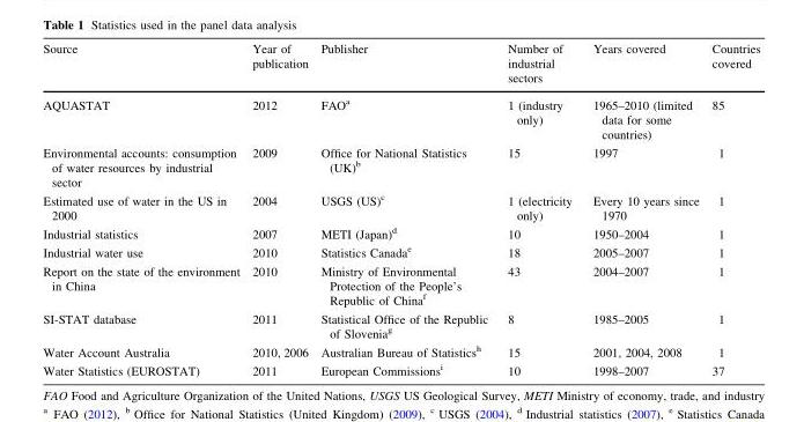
<table><thead><tr><td>Source</td><td>Year of publication</td><td>Publisher</td><td>Number of industrial sectors</td><td>Years covered</td><td>Countries covered</td></tr></thead><tbody><tr><td>AQUASTAT</td><td>2012</td><td>FAO<sup>a</sup></td><td>1 (industry only)</td><td>1965–2010 (limited data for some countries)</td><td>85</td></tr><tr><td>Environmental accounts: consumption of water resources by industrial sector</td><td>2009</td><td>Office for National Statistics (UK)<sup>b</sup></td><td>15</td><td>1997</td><td>1</td></tr><tr><td>Estimated use of water in the US in 2000</td><td>2004</td><td>USGS (US)<sup>c</sup></td><td>1 (electricity only)</td><td>Every 10 years since 1970</td><td>1</td></tr><tr><td>Industrial statistics</td><td>2007</td><td>METI (Japan)<sup>d</sup></td><td>10</td><td>1950–2004</td><td>1</td></tr><tr><td>Industrial water use</td><td>2010</td><td>Statistics Canada<sup>e</sup></td><td>18</td><td>2005–2007</td><td>1</td></tr><tr><td>Report on the state of the environment in China</td><td>2010</td><td>Ministry of Environmental Protection of the People’s Republic of China<sup>f</sup></td><td>43</td><td>2004–2007</td><td>1</td></tr><tr><td>SI-STAT database</td><td>2011</td><td>Statistical Office of the Republic of Slovenia<sup>g</sup></td><td>8</td><td>1985–2005</td><td>1</td></tr><tr><td>Water Account Australia</td><td>2010, 2006</td><td>Australian Bureau of Statistics<sup>h</sup></td><td>15</td><td>2001, 2004, 2008</td><td>1</td></tr><tr><td>Water Statistics (EUROSTAT)</td><td>2011</td><td>European Commissions<sup>i</sup></td><td>10</td><td>1998–2007</td><td>37</td></tr></tbody></table>